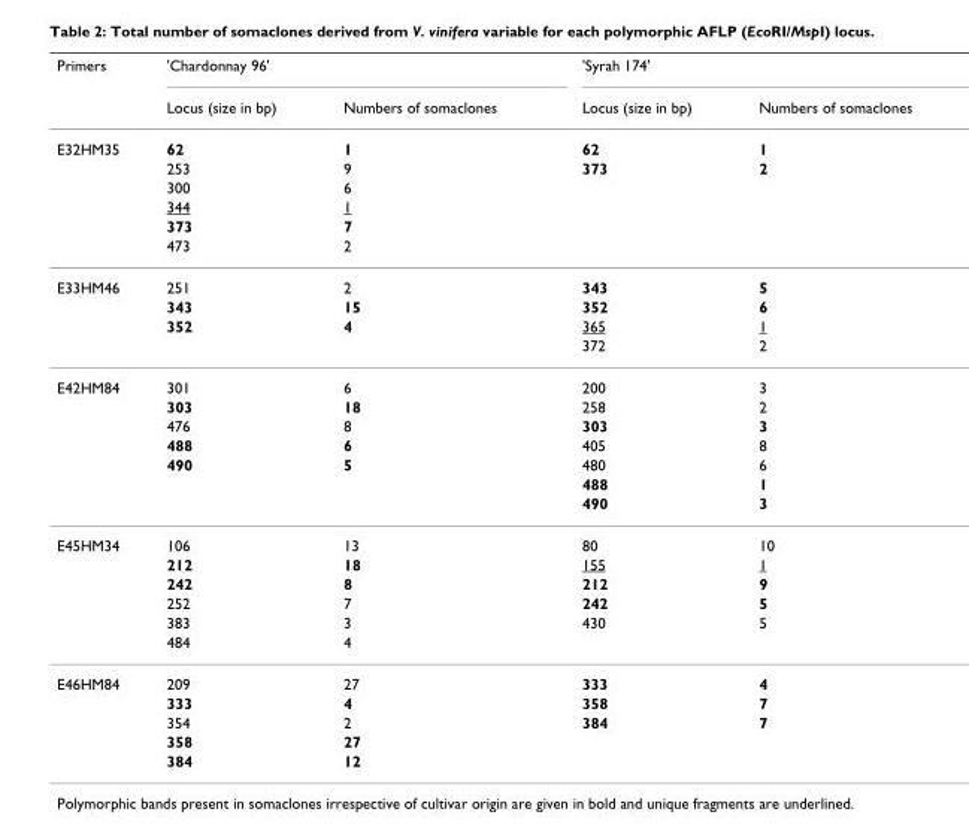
<table><thead><tr><td rowspan="2">Primers</td><td colspan="2">&#x27;Chardonnay 96&#x27;</td><td colspan="2">&#x27;Syrah 174&#x27;</td></tr><tr><td>Locus (size in bp)</td><td>Numbers of somaclones</td><td>Locus (size in bp)</td><td>Numbers of somaclones</td></tr></thead><tbody><tr><td rowspan="6">E32HM35</td><td>62</td><td>1</td><td>62</td><td>1</td></tr><tr><td>253</td><td>9</td><td>373</td><td>2</td></tr><tr><td>300</td><td>6</td><td></td><td></td></tr><tr><td>344</td><td>1</td><td></td><td></td></tr><tr><td>373</td><td>7</td><td></td><td></td></tr><tr><td>473</td><td>2</td><td></td><td></td></tr><tr><td rowspan="4">E33HM46</td><td>251</td><td>2</td><td>343</td><td>5</td></tr><tr><td>343</td><td>15</td><td>352</td><td>6</td></tr><tr><td>352</td><td>4</td><td>365</td><td>1</td></tr><tr><td></td><td></td><td>372</td><td>2</td></tr><tr><td rowspan="7">E42HM84</td><td>301</td><td>6</td><td>200</td><td>3</td></tr><tr><td>303</td><td>18</td><td>258</td><td>2</td></tr><tr><td>476</td><td>8</td><td>303</td><td>3</td></tr><tr><td>488</td><td>6</td><td>405</td><td>8</td></tr><tr><td>490</td><td>5</td><td>480</td><td>6</td></tr><tr><td></td><td></td><td>488</td><td>1</td></tr><tr><td></td><td></td><td>490</td><td>3</td></tr><tr><td rowspan="6">E45HM34</td><td>106</td><td>13</td><td>80</td><td>10</td></tr><tr><td>212</td><td>18</td><td>155</td><td>1</td></tr><tr><td>242</td><td>8</td><td>212</td><td>9</td></tr><tr><td>252</td><td>7</td><td>242</td><td>5</td></tr><tr><td>383</td><td>3</td><td>430</td><td>5</td></tr><tr><td>484</td><td>4</td><td></td><td></td></tr><tr><td rowspan="5">E46HM84</td><td>209</td><td>27</td><td>333</td><td>4</td></tr><tr><td>333</td><td>4</td><td>358</td><td>7</td></tr><tr><td>354</td><td>2</td><td>384</td><td>7</td></tr><tr><td>358</td><td>27</td><td></td><td></td></tr><tr><td>384</td><td>12</td><td></td><td></td></tr></tbody></table>